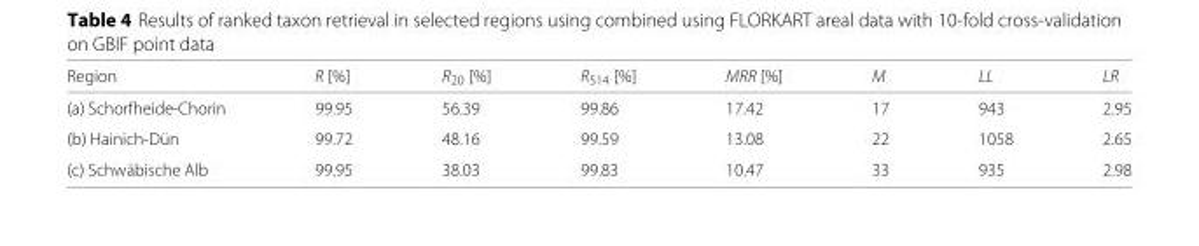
<table><thead><tr><td>Region</td><td>R [%]</td><td>R<sub>20</sub> [%]</td><td>R<sub>514</sub> [%]</td><td>MRR [%]</td><td>M</td><td>LL</td><td>LR</td></tr></thead><tbody><tr><td>(a) Schorfheide-Chorin</td><td>99.95</td><td>56.39</td><td>99.86</td><td>17.42</td><td>17</td><td>943</td><td>2.95</td></tr><tr><td>(b) Hainich-Dün</td><td>99.72</td><td>48.16</td><td>99.59</td><td>13.08</td><td>22</td><td>1058</td><td>2.65</td></tr><tr><td>(c) Schwäbische Alb</td><td>99.95</td><td>38.03</td><td>99.83</td><td>10.47</td><td>33</td><td>935</td><td>2.98</td></tr></tbody></table>